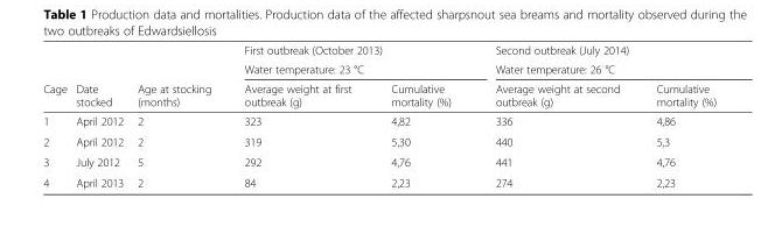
<table><thead><tr><td rowspan="3">Cage</td><td rowspan="3">Date stocked</td><td rowspan="3">Age at stocking (months)</td><td>First outbreak (October 2013)</td><td></td><td>Second outbreak (July 2014)</td><td></td></tr><tr><td colspan="2">Water temperature: 23 °C</td><td colspan="2">Water temperature: 26 °C</td></tr><tr><td>Average weight at first outbreak (g)</td><td>Cumulative mortality (%)</td><td>Average weight at second outbreak (g)</td><td>Cumulative mortality (%)</td></tr></thead><tbody><tr><td>1</td><td>April 2012</td><td>2</td><td>323</td><td>4,82</td><td>336</td><td>4,86</td></tr><tr><td>2</td><td>April 2012</td><td>2</td><td>319</td><td>5,30</td><td>440</td><td>5,3</td></tr><tr><td>3</td><td>July 2012</td><td>5</td><td>292</td><td>4,76</td><td>441</td><td>4,76</td></tr><tr><td>4</td><td>April 2013</td><td>2</td><td>84</td><td>2,23</td><td>274</td><td>2,23</td></tr></tbody></table>